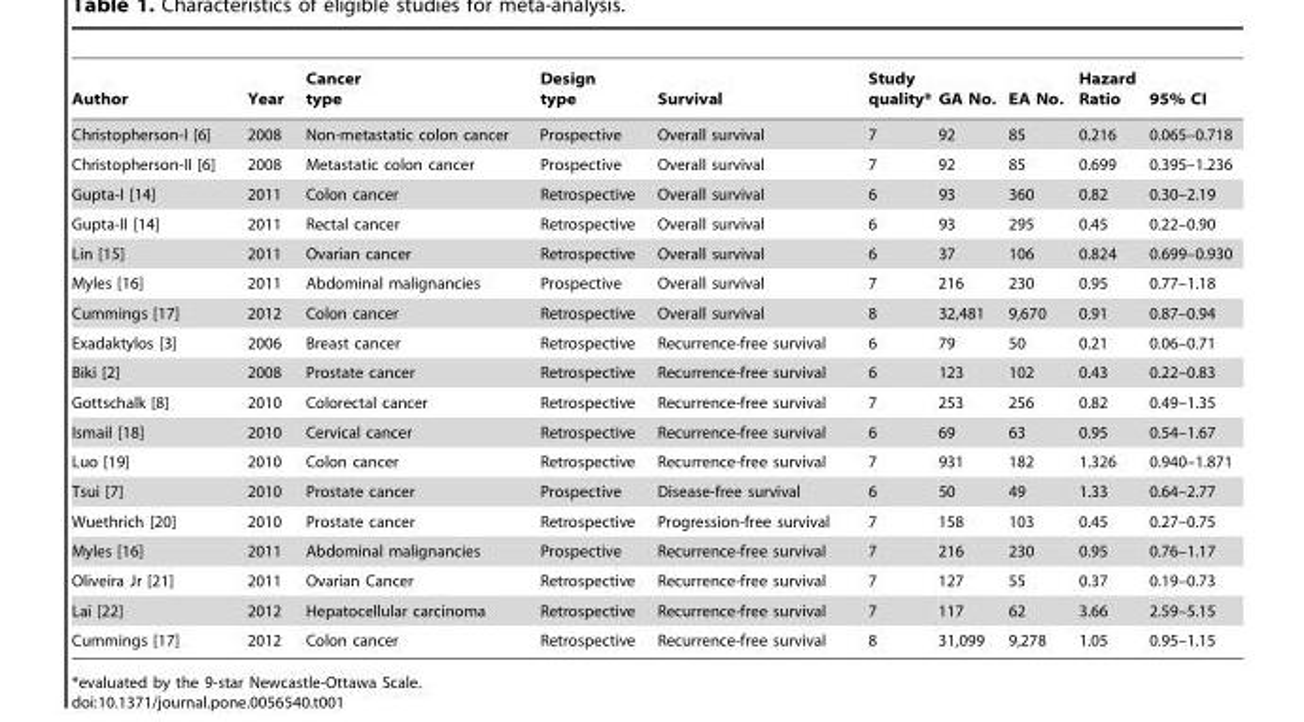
<table><thead><tr><td>Author</td><td>Year</td><td>Cancer type</td><td>Design type</td><td>Survival</td><td>Study quality*</td><td>GA No.</td><td>EA No.</td><td>Hazard Ratio</td><td>95% CI</td></tr></thead><tbody><tr><td>Christopherson-I [6]</td><td>2008</td><td>Non-metastatic colon cancer</td><td>Prospective</td><td>Overall survival</td><td>7</td><td>92</td><td>85</td><td>0.216</td><td>0.065–0.718</td></tr><tr><td>Christopherson-II [6]</td><td>2008</td><td>Metastatic colon cancer</td><td>Prospective</td><td>Overall survival</td><td>7</td><td>92</td><td>85</td><td>0.699</td><td>0.395–1.236</td></tr><tr><td>Gupta-I [14]</td><td>2011</td><td>Colon cancer</td><td>Retrospective</td><td>Overall survival</td><td>6</td><td>93</td><td>360</td><td>0.82</td><td>0.30–2.19</td></tr><tr><td>Gupta-II [14]</td><td>2011</td><td>Rectal cancer</td><td>Retrospective</td><td>Overall survival</td><td>6</td><td>93</td><td>295</td><td>0.45</td><td>0.22–0.90</td></tr><tr><td>Lin [15]</td><td>2011</td><td>Ovarian cancer</td><td>Retrospective</td><td>Overall survival</td><td>6</td><td>37</td><td>106</td><td>0.824</td><td>0.699–0.930</td></tr><tr><td>Myles [16]</td><td>2011</td><td>Abdominal malignancies</td><td>Prospective</td><td>Overall survival</td><td>7</td><td>216</td><td>230</td><td>0.95</td><td>0.77–1.18</td></tr><tr><td>Cummings [17]</td><td>2012</td><td>Colon cancer</td><td>Retrospective</td><td>Overall survival</td><td>8</td><td>32,481</td><td>9,670</td><td>0.91</td><td>0.87–0.94</td></tr><tr><td>Exadaktylos [3]</td><td>2006</td><td>Breast cancer</td><td>Retrospective</td><td>Recurrence-free survival</td><td>6</td><td>79</td><td>50</td><td>0.21</td><td>0.06–0.71</td></tr><tr><td>Biki [2]</td><td>2008</td><td>Prostate cancer</td><td>Retrospective</td><td>Recurrence-free survival</td><td>6</td><td>123</td><td>102</td><td>0.43</td><td>0.22–0.83</td></tr><tr><td>Gottschalk [8]</td><td>2010</td><td>Colorectal cancer</td><td>Retrospective</td><td>Recurrence-free survival</td><td>7</td><td>253</td><td>256</td><td>0.82</td><td>0.49–1.35</td></tr><tr><td>Ismail [18]</td><td>2010</td><td>Cervical cancer</td><td>Retrospective</td><td>Recurrence-free survival</td><td>6</td><td>69</td><td>63</td><td>0.95</td><td>0.54–1.67</td></tr><tr><td>Luo [19]</td><td>2010</td><td>Colon cancer</td><td>Retrospective</td><td>Recurrence-free survival</td><td>7</td><td>931</td><td>182</td><td>1.326</td><td>0.940–1.871</td></tr><tr><td>Tsui [7]</td><td>2010</td><td>Prostate cancer</td><td>Prospective</td><td>Disease-free survival</td><td>6</td><td>50</td><td>49</td><td>1.33</td><td>0.64–2.77</td></tr><tr><td>Wuethrich [20]</td><td>2010</td><td>Prostate cancer</td><td>Retrospective</td><td>Progression-free survival</td><td>7</td><td>158</td><td>103</td><td>0.45</td><td>0.27–0.75</td></tr><tr><td>Myles [16]</td><td>2011</td><td>Abdominal malignancies</td><td>Prospective</td><td>Recurrence-free survival</td><td>7</td><td>216</td><td>230</td><td>0.95</td><td>0.76–1.17</td></tr><tr><td>Oliveira Jr [21]</td><td>2011</td><td>Ovarian Cancer</td><td>Retrospective</td><td>Recurrence-free survival</td><td>7</td><td>127</td><td>55</td><td>0.37</td><td>0.19–0.73</td></tr><tr><td>Lai [22]</td><td>2012</td><td>Hepatocellular carcinoma</td><td>Retrospective</td><td>Recurrence-free survival</td><td>7</td><td>117</td><td>62</td><td>3.66</td><td>2.59–5.15</td></tr><tr><td>Cummings [17]</td><td>2012</td><td>Colon cancer</td><td>Retrospective</td><td>Recurrence-free survival</td><td>8</td><td>31,099</td><td>9,278</td><td>1.05</td><td>0.95–1.15</td></tr></tbody></table>